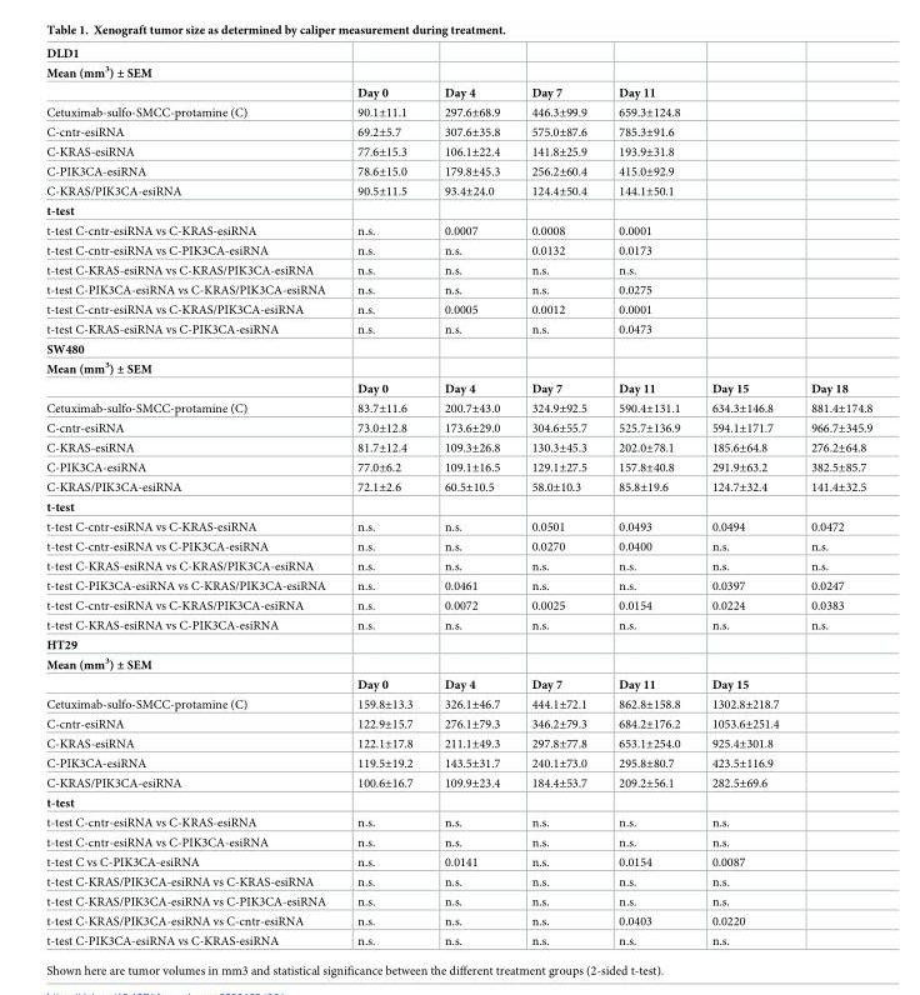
<table><tbody><tr><td colspan="7">DLD1</td></tr><tr><td colspan="7">Mean (mm<sup>3</sup>) ± SEM</td></tr><tr><td></td><td>Day 0</td><td>Day 4</td><td>Day 7</td><td>Day 11</td><td></td><td></td></tr><tr><td>Cetuximab-sulfo-SMCC-protamine (C)</td><td>90.1±11.1</td><td>297.6±68.9</td><td>446.3±99.9</td><td>659.3±124.8</td><td></td><td></td></tr><tr><td>C-cntr-esiRNA</td><td>69.2±5.7</td><td>307.6±35.8</td><td>575.0±87.6</td><td>785.3±91.6</td><td></td><td></td></tr><tr><td>C-KRAS-esiRNA</td><td>77.6±15.3</td><td>106.1±22.4</td><td>141.8±25.9</td><td>193.9±31.8</td><td></td><td></td></tr><tr><td>C-PIK3CA-esiRNA</td><td>78.6±15.0</td><td>179.8±45.3</td><td>256.2±60.4</td><td>415.0±92.9</td><td></td><td></td></tr><tr><td>C-KRAS/PIK3CA-esiRNA</td><td>90.5±11.5</td><td>93.4±24.0</td><td>124.4±50.4</td><td>144.1±50.1</td><td></td><td></td></tr><tr><td colspan="7">t-test</td></tr><tr><td>t-test C-cntr-esiRNA vs C-KRAS-esiRNA</td><td>n.s.</td><td>0.0007</td><td>0.0008</td><td>0.0001</td><td></td><td></td></tr><tr><td>t-test C-cntr-esiRNA vs C-PIK3CA-esiRNA</td><td>n.s.</td><td>n.s.</td><td>0.0132</td><td>0.0173</td><td></td><td></td></tr><tr><td>t-test C-KRAS-esiRNA vs C-KRAS/PIK3CA-esiRNA</td><td>n.s.</td><td>n.s.</td><td>n.s.</td><td>n.s.</td><td></td><td></td></tr><tr><td>t-test C-PIK3CA-esiRNA vs C-KRAS/PIK3CA-esiRNA</td><td>n.s.</td><td>n.s.</td><td>n.s.</td><td>0.0275</td><td></td><td></td></tr><tr><td>t-test C-cntr-esiRNA vs C-KRAS/PIK3CA-esiRNA</td><td>n.s.</td><td>0.0005</td><td>0.0012</td><td>0.0001</td><td></td><td></td></tr><tr><td>t-test C-KRAS-esiRNA vs C-PIK3CA-esiRNA</td><td>n.s.</td><td>n.s.</td><td>n.s.</td><td>0.0473</td><td></td><td></td></tr><tr><td colspan="7">SW480</td></tr><tr><td colspan="7">Mean (mm<sup>3</sup>) ± SEM</td></tr><tr><td></td><td>Day 0</td><td>Day 4</td><td>Day 7</td><td>Day 11</td><td>Day 15</td><td>Day 18</td></tr><tr><td>Cetuximab-sulfo-SMCC-protamine (C)</td><td>83.7±11.6</td><td>200.7±43.0</td><td>324.9±92.5</td><td>590.4±131.1</td><td>634.3±146.8</td><td>881.4±174.8</td></tr><tr><td>C-cntr-esiRNA</td><td>73.0±12.8</td><td>173.6±29.0</td><td>304.6±55.7</td><td>525.7±136.9</td><td>594.1±171.7</td><td>966.7±345.9</td></tr><tr><td>C-KRAS-esiRNA</td><td>81.7±12.4</td><td>109.3±26.8</td><td>130.3±45.3</td><td>202.0±78.1</td><td>185.6±64.8</td><td>276.2±64.8</td></tr><tr><td>C-PIK3CA-esiRNA</td><td>77.0±6.2</td><td>109.1±16.5</td><td>129.1±27.5</td><td>157.8±40.8</td><td>291.9±63.2</td><td>382.5±85.7</td></tr><tr><td>C-KRAS/PIK3CA-esiRNA</td><td>72.1±2.6</td><td>60.5±10.5</td><td>58.0±10.3</td><td>85.8±19.6</td><td>124.7±32.4</td><td>141.4±32.5</td></tr><tr><td colspan="7">t-test</td></tr><tr><td>t-test C-cntr-esiRNA vs C-KRAS-esiRNA</td><td>n.s.</td><td>n.s.</td><td>0.0501</td><td>0.0493</td><td>0.0494</td><td>0.0472</td></tr><tr><td>t-test C-cntr-esiRNA vs C-PIK3CA-esiRNA</td><td>n.s.</td><td>n.s.</td><td>0.0270</td><td>0.0400</td><td>n.s.</td><td>n.s.</td></tr><tr><td>t-test C-KRAS-esiRNA vs C-KRAS/PIK3CA-esiRNA</td><td>n.s.</td><td>n.s.</td><td>n.s.</td><td>n.s.</td><td>n.s.</td><td>n.s.</td></tr><tr><td>t-test C-PIK3CA-esiRNA vs C-KRAS/PIK3CA-esiRNA</td><td>n.s.</td><td>0.0461</td><td>n.s.</td><td>n.s.</td><td>0.0397</td><td>0.0247</td></tr><tr><td>t-test C-cntr-esiRNA vs C-KRAS/PIK3CA-esiRNA</td><td>n.s.</td><td>0.0072</td><td>0.0025</td><td>0.0154</td><td>0.0224</td><td>0.0383</td></tr><tr><td>t-test C-KRAS-esiRNA vs C-PIK3CA-esiRNA</td><td>n.s.</td><td>n.s.</td><td>n.s.</td><td>n.s.</td><td>n.s.</td><td>n.s.</td></tr><tr><td colspan="7">HT29</td></tr><tr><td colspan="7">Mean (mm<sup>3</sup>) ± SEM</td></tr><tr><td></td><td>Day 0</td><td>Day 4</td><td>Day 7</td><td>Day 11</td><td>Day 15</td><td></td></tr><tr><td>Cetuximab-sulfo-SMCC-protamine (C)</td><td>159.8±13.3</td><td>326.1±46.7</td><td>444.1±72.1</td><td>862.8±158.8</td><td>1302.8±218.7</td><td></td></tr><tr><td>C-cntr-esiRNA</td><td>122.9±15.7</td><td>276.1±79.3</td><td>346.2±79.3</td><td>684.2±176.2</td><td>1053.6±251.4</td><td></td></tr><tr><td>C-KRAS-esiRNA</td><td>122.1±17.8</td><td>211.1±49.3</td><td>297.8±77.8</td><td>653.1±254.0</td><td>925.4±301.8</td><td></td></tr><tr><td>C-PIK3CA-esiRNA</td><td>119.5±19.2</td><td>143.5±31.7</td><td>240.1±73.0</td><td>295.8±80.7</td><td>423.5±116.9</td><td></td></tr><tr><td>C-KRAS/PIK3CA-esiRNA</td><td>100.6±16.7</td><td>109.9±23.4</td><td>184.4±53.7</td><td>209.2±56.1</td><td>282.5±69.6</td><td></td></tr><tr><td colspan="7">t-test</td></tr><tr><td>t-test C-cntr-esiRNA vs C-KRAS-esiRNA</td><td>n.s.</td><td>n.s.</td><td>n.s.</td><td>n.s.</td><td>n.s.</td><td></td></tr><tr><td>t-test C-cntr-esiRNA vs C-PIK3CA-esiRNA</td><td>n.s.</td><td>n.s.</td><td>n.s.</td><td>n.s.</td><td>n.s.</td><td></td></tr><tr><td>t-test C vs C-PIK3CA-esiRNA</td><td>n.s.</td><td>0.0141</td><td>n.s.</td><td>0.0154</td><td>0.0087</td><td></td></tr><tr><td>t-test C-KRAS/PIK3CA-esiRNA vs C-KRAS-esiRNA</td><td>n.s.</td><td>n.s.</td><td>n.s.</td><td>n.s.</td><td>n.s.</td><td></td></tr><tr><td>t-test C-KRAS/PIK3CA-esiRNA vs C-PIK3CA-esiRNA</td><td>n.s.</td><td>n.s.</td><td>n.s.</td><td>n.s.</td><td>n.s.</td><td></td></tr><tr><td>t-test C-KRAS/PIK3CA-esiRNA vs C-cntr-esiRNA</td><td>n.s.</td><td>n.s.</td><td>n.s.</td><td>0.0403</td><td>0.0220</td><td></td></tr><tr><td>t-test C-PIK3CA-esiRNA vs C-KRAS-esiRNA</td><td>n.s.</td><td>n.s.</td><td>n.s.</td><td>n.s.</td><td>n.s.</td><td></td></tr></tbody></table>